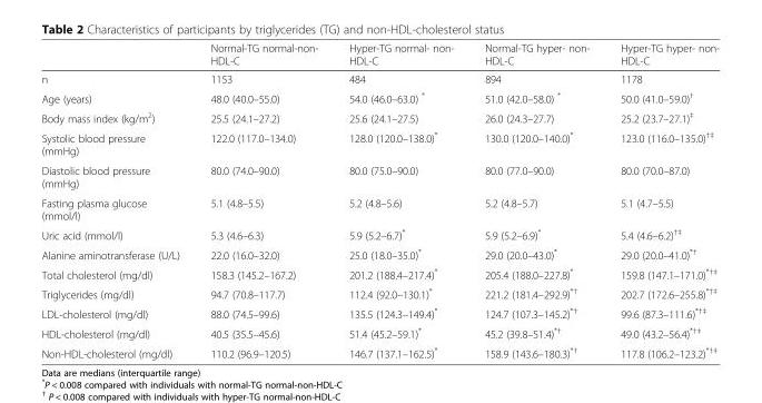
<table><thead><tr><td></td><td>Normal-TG normal-non- HDL-C</td><td>Hyper-TG normal- non- HDL-C</td><td>Normal-TG hyper- non- HDL-C</td><td>Hyper-TG hyper- non- HDL-C</td></tr></thead><tbody><tr><td>n</td><td>1153</td><td>484</td><td>894</td><td>1178</td></tr><tr><td>Age (years)</td><td>48.0 (40.0–55.0)</td><td>54.0 (46.0–63.0) *</td><td>51.0 (42.0–58.0) *</td><td>50.0 (41.0–59.0)<sup>†</sup></td></tr><tr><td>Body mass index (kg/m<sup>2</sup>)</td><td>25.5 (24.1–27.2)</td><td>25.6 (24.1–27.5)</td><td>26.0 (24.3–27.7)</td><td>25.2 (23.7–27.1)<sup>‡</sup></td></tr><tr><td>Systolic blood pressure (mmHg)</td><td>122.0 (117.0–134.0)</td><td>128.0 (120.0–138.0)*</td><td>130.0 (120.0–140.0)*</td><td>123.0 (116.0–135.0)<sup>†‡</sup></td></tr><tr><td>Diastolic blood pressure (mmHg)</td><td>80.0 (74.0–90.0)</td><td>80.0 (75.0–90.0)</td><td>80.0 (77.0–90.0)</td><td>80.0 (70.0–87.0)</td></tr><tr><td>Fasting plasma glucose (mmol/l)</td><td>5.1 (4.8–5.5)</td><td>5.2 (4.8–5.6)</td><td>5.2 (4.8–5.7)</td><td>5.1 (4.7–5.5)</td></tr><tr><td>Uric acid (mmol/l)</td><td>5.3 (4.6–6.3)</td><td>5.9 (5.2–6.7)*</td><td>5.9 (5.2–6.9)*</td><td>5.4 (4.6–6.2)<sup>†‡</sup></td></tr><tr><td>Alanine aminotransferase (U/L)</td><td>22.0 (16.0–32.0)</td><td>25.0 (18.0–35.0)*</td><td>29.0 (20.0–43.0)*</td><td>29.0 (20.0–41.0)<sup>*†</sup></td></tr><tr><td>Total cholesterol (mg/dl)</td><td>158.3 (145.2–167.2)</td><td>201.2 (188.4–217.4)*</td><td>205.4 (188.0–227.8)*</td><td>159.8 (147.1–171.0)<sup>*†‡</sup></td></tr><tr><td>Triglycerides (mg/dl)</td><td>94.7 (70.8–117.7)</td><td>112.4 (92.0–130.1)*</td><td>221.2 (181.4–292.9)<sup>*†</sup></td><td>202.7 (172.6–255.8)<sup>*†‡</sup></td></tr><tr><td>LDL-cholesterol (mg/dl)</td><td>88.0 (74.5–99.6)</td><td>135.5 (124.3–149.4)*</td><td>124.7 (107.3–145.2)<sup>*†</sup></td><td>99.6 (87.3–111.6)<sup>*†‡</sup></td></tr><tr><td>HDL-cholesterol (mg/dl)</td><td>40.5 (35.5–45.6)</td><td>51.4 (45.2–59.1)*</td><td>45.2 (39.8–51.4)<sup>*†</sup></td><td>49.0 (43.2–56.4)<sup>*†‡</sup></td></tr><tr><td>Non-HDL-cholesterol (mg/dl)</td><td>110.2 (96.9–120.5)</td><td>146.7 (137.1–162.5)*</td><td>158.9 (143.6–180.3)<sup>*†</sup></td><td>117.8 (106.2–123.2)<sup>*†‡</sup></td></tr></tbody></table>